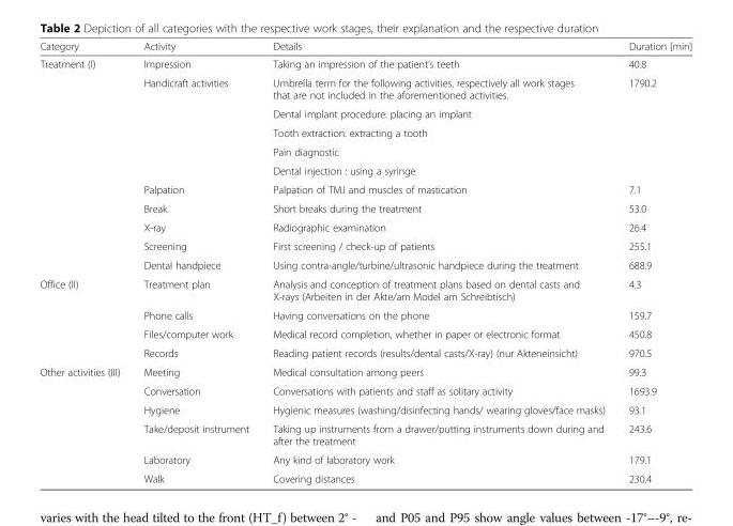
<table><thead><tr><td>Category</td><td>Activity</td><td>Details</td><td>Duration [min]</td></tr></thead><tbody><tr><td rowspan="11">Treatment (I)</td><td>Impression</td><td>Taking an impression of the patient’s teeth</td><td>40.8</td></tr><tr><td rowspan="5">Handicraft activities</td><td>Umbrella term for the following activities, respectively all work stages that are not included in the aforementioned activities.</td><td rowspan="5">1790.2</td></tr><tr><td>Dental implant procedure: placing an implant</td></tr><tr><td>Tooth extraction: extracting a tooth</td></tr><tr><td>Pain diagnostic</td></tr><tr><td>Dental injection : using a syringe</td></tr><tr><td>Palpation</td><td>Palpation of TMJ and muscles of mastication</td><td>7.1</td></tr><tr><td>Break</td><td>Short breaks during the treatment</td><td>53.0</td></tr><tr><td>X-ray</td><td>Radiographic examination</td><td>26.4</td></tr><tr><td>Screening</td><td>First screening / check-up of patients</td><td>255.1</td></tr><tr><td>Dental handpiece</td><td>Using contra-angle/turbine/ultrasonic handpiece during the treatment</td><td>688.9</td></tr><tr><td rowspan="4">Office (II)</td><td>Treatment plan</td><td>Analysis and conception of treatment plans based on dental casts and X-rays (Arbeiten in der Akte/am Model am Schreibtisch)</td><td>4.3</td></tr><tr><td>Phone calls</td><td>Having conversations on the phone</td><td>159.7</td></tr><tr><td>Files/computer work</td><td>Medical record completion, whether in paper or electronic format</td><td>450.8</td></tr><tr><td>Records</td><td>Reading patient records (results/dental casts/X-ray) (nur Akteneinsicht)</td><td>970.5</td></tr><tr><td rowspan="6">Other activities (III)</td><td>Meeting</td><td>Medical consultation among peers</td><td>99.3</td></tr><tr><td>Conversation</td><td>Conversations with patients and staff as solitary activity</td><td>1693.9</td></tr><tr><td>Hygiene</td><td>Hygienic measures (washing/disinfecting hands/ wearing gloves/face masks)</td><td>93.1</td></tr><tr><td>Take/deposit instrument</td><td>Taking up instruments from a drawer/putting instruments down during and after the treatment</td><td>243.6</td></tr><tr><td>Laboratory</td><td>Any kind of laboratory work</td><td>179.1</td></tr><tr><td>Walk</td><td>Covering distances</td><td>230.4</td></tr></tbody></table>